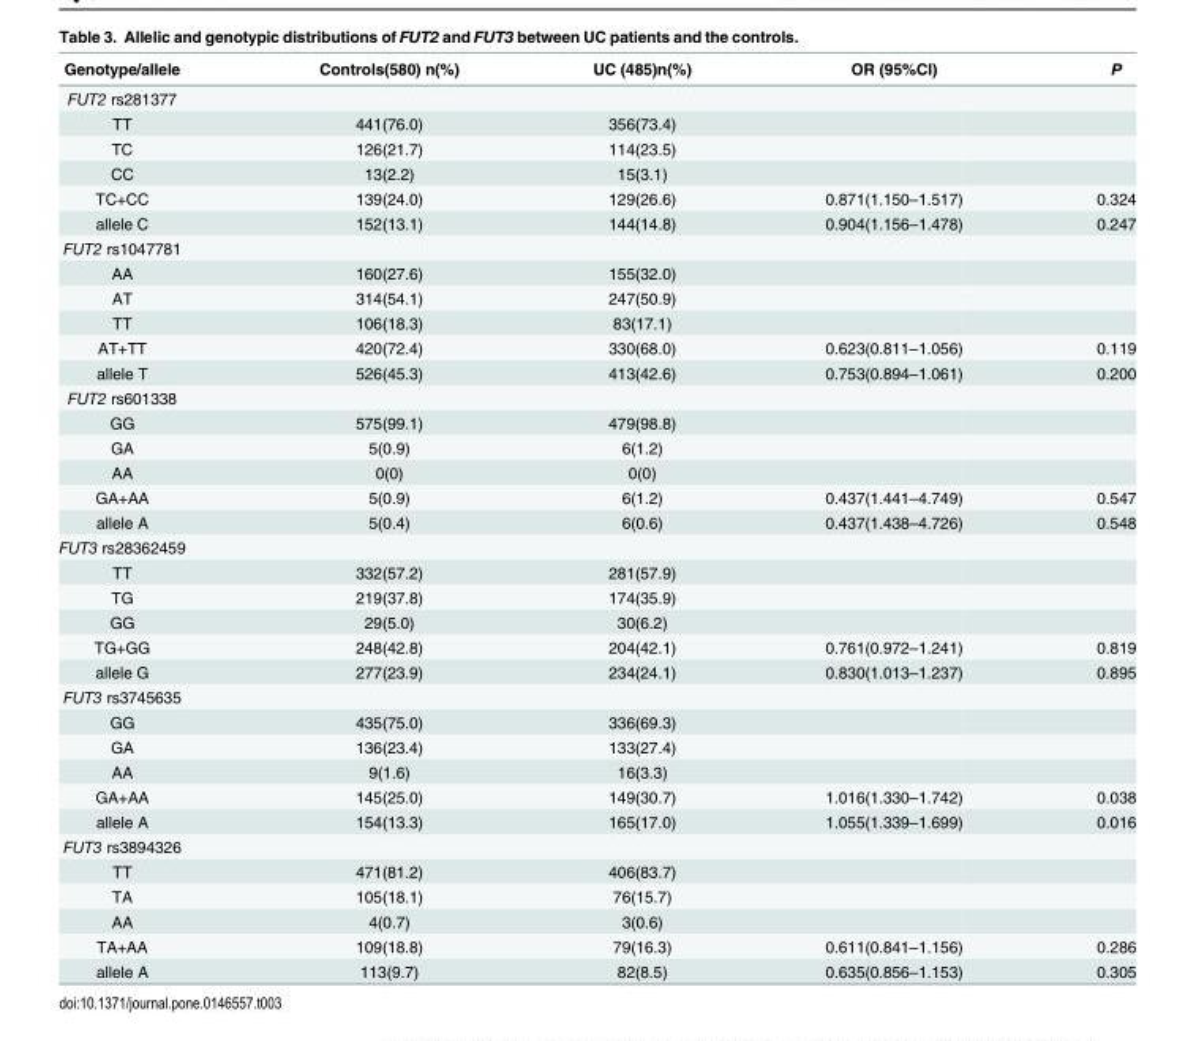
<table><thead><tr><td>Genotype/allele</td><td>Controls(580) n(%)</td><td>UC (485)n(%)</td><td>OR (95%CI)</td><td>P</td></tr></thead><tbody><tr><td colspan="5">FUT2 rs281377</td></tr><tr><td>TT</td><td>441(76.0)</td><td>356(73.4)</td><td></td><td></td></tr><tr><td>TC</td><td>126(21.7)</td><td>114(23.5)</td><td></td><td></td></tr><tr><td>CC</td><td>13(2.2)</td><td>15(3.1)</td><td></td><td></td></tr><tr><td>TC+CC</td><td>139(24.0)</td><td>129(26.6)</td><td>0.871(1.150–1.517)</td><td>0.324</td></tr><tr><td>allele C</td><td>152(13.1)</td><td>144(14.8)</td><td>0.904(1.156–1.478)</td><td>0.247</td></tr><tr><td colspan="5">FUT2 rs1047781</td></tr><tr><td>AA</td><td>160(27.6)</td><td>155(32.0)</td><td></td><td></td></tr><tr><td>AT</td><td>314(54.1)</td><td>247(50.9)</td><td></td><td></td></tr><tr><td>TT</td><td>106(18.3)</td><td>83(17.1)</td><td></td><td></td></tr><tr><td>AT+TT</td><td>420(72.4)</td><td>330(68.0)</td><td>0.623(0.811–1.056)</td><td>0.119</td></tr><tr><td>allele T</td><td>526(45.3)</td><td>413(42.6)</td><td>0.753(0.894–1.061)</td><td>0.200</td></tr><tr><td colspan="5">FUT2 rs601338</td></tr><tr><td>GG</td><td>575(99.1)</td><td>479(98.8)</td><td></td><td></td></tr><tr><td>GA</td><td>5(0.9)</td><td>6(1.2)</td><td></td><td></td></tr><tr><td>AA</td><td>0(0)</td><td>0(0)</td><td></td><td></td></tr><tr><td>GA+AA</td><td>5(0.9)</td><td>6(1.2)</td><td>0.437(1.441–4.749)</td><td>0.547</td></tr><tr><td>allele A</td><td>5(0.4)</td><td>6(0.6)</td><td>0.437(1.438–4.726)</td><td>0.548</td></tr><tr><td colspan="5">FUT3 rs28362459</td></tr><tr><td>TT</td><td>332(57.2)</td><td>281(57.9)</td><td></td><td></td></tr><tr><td>TG</td><td>219(37.8)</td><td>174(35.9)</td><td></td><td></td></tr><tr><td>GG</td><td>29(5.0)</td><td>30(6.2)</td><td></td><td></td></tr><tr><td>TG+GG</td><td>248(42.8)</td><td>204(42.1)</td><td>0.761(0.972–1.241)</td><td>0.819</td></tr><tr><td>allele G</td><td>277(23.9)</td><td>234(24.1)</td><td>0.830(1.013–1.237)</td><td>0.895</td></tr><tr><td colspan="5">FUT3 rs3745635</td></tr><tr><td>GG</td><td>435(75.0)</td><td>336(69.3)</td><td></td><td></td></tr><tr><td>GA</td><td>136(23.4)</td><td>133(27.4)</td><td></td><td></td></tr><tr><td>AA</td><td>9(1.6)</td><td>16(3.3)</td><td></td><td></td></tr><tr><td>GA+AA</td><td>145(25.0)</td><td>149(30.7)</td><td>1.016(1.330–1.742)</td><td>0.038</td></tr><tr><td>allele A</td><td>154(13.3)</td><td>165(17.0)</td><td>1.055(1.339–1.699)</td><td>0.016</td></tr><tr><td colspan="5">FUT3 rs3894326</td></tr><tr><td>TT</td><td>471(81.2)</td><td>406(83.7)</td><td></td><td></td></tr><tr><td>TA</td><td>105(18.1)</td><td>76(15.7)</td><td></td><td></td></tr><tr><td>AA</td><td>4(0.7)</td><td>3(0.6)</td><td></td><td></td></tr><tr><td>TA+AA</td><td>109(18.8)</td><td>79(16.3)</td><td>0.611(0.841–1.156)</td><td>0.286</td></tr><tr><td>allele A</td><td>113(9.7)</td><td>82(8.5)</td><td>0.635(0.856–1.153)</td><td>0.305</td></tr></tbody></table>